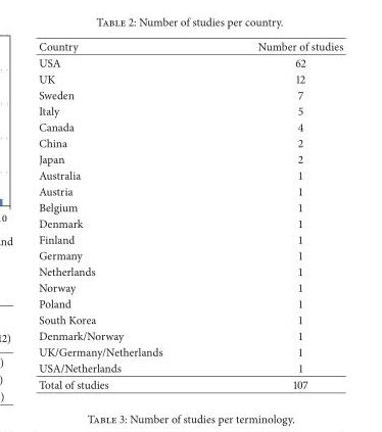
<table><thead><tr><td>Country</td><td>Number of studies</td></tr></thead><tbody><tr><td>USA</td><td>62</td></tr><tr><td>UK</td><td>12</td></tr><tr><td>Sweden</td><td>7</td></tr><tr><td>Italy</td><td>5</td></tr><tr><td>Canada</td><td>4</td></tr><tr><td>China</td><td>2</td></tr><tr><td>Japan</td><td>2</td></tr><tr><td>Australia</td><td>1</td></tr><tr><td>Austria</td><td>1</td></tr><tr><td>Belgium</td><td>1</td></tr><tr><td>Denmark</td><td>1</td></tr><tr><td>Finland</td><td>1</td></tr><tr><td>Germany</td><td>1</td></tr><tr><td>Netherlands</td><td>1</td></tr><tr><td>Norway</td><td>1</td></tr><tr><td>Poland</td><td>1</td></tr><tr><td>South Korea</td><td>1</td></tr><tr><td>Denmark/Norway</td><td>1</td></tr><tr><td>UK/Germany/Netherlands</td><td>1</td></tr><tr><td>USA/Netherlands</td><td>1</td></tr><tr><td>Total of studies</td><td>107</td></tr></tbody></table>